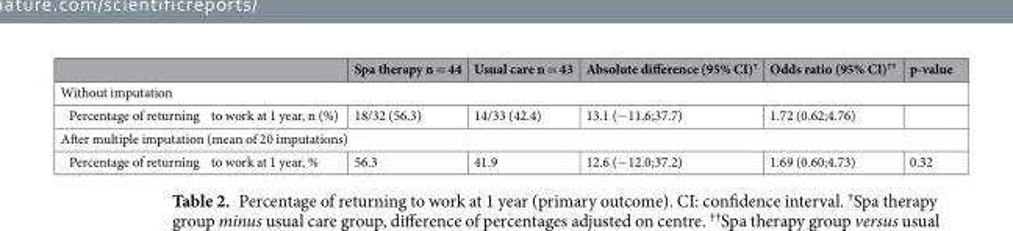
<table><thead><tr><td></td><td>Spa therapy n = 44</td><td>Usual care n = 43</td><td>Absolute difference (95% CI)<sup>†</sup></td><td>Odds ratio (95% CI)<sup>††</sup></td><td>p-value</td></tr></thead><tbody><tr><td colspan="6">Without imputation</td></tr><tr><td>Percentage of returning to work at 1 year, n (%)</td><td>18/32 (56.3)</td><td>14/33 (42.4)</td><td>13.1 (−11.6;37.7)</td><td>1.72 (0.62;4.76)</td><td></td></tr><tr><td colspan="6">After multiple imputation (mean of 20 imputations)</td></tr><tr><td>Percentage of returning to work at 1 year, %</td><td>56.3</td><td>41.9</td><td>12.6 (−12.0;37.2)</td><td>1.69 (0.60;4.73)</td><td>0.32</td></tr></tbody></table>